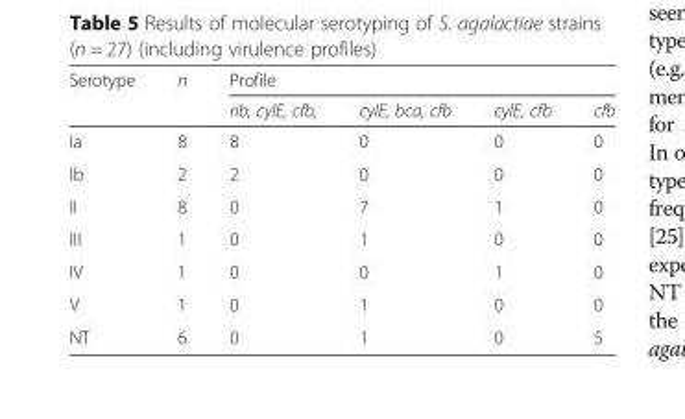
<table><thead><tr><td rowspan="2">Serotype</td><td rowspan="2">n</td><td colspan="4">Profile</td></tr><tr><td>rib, cylE, cfb,</td><td>cylE, bca, cfb</td><td>cylE, cfb</td><td>cfb</td></tr></thead><tbody><tr><td>Ia</td><td>8</td><td>8</td><td>0</td><td>0</td><td>0</td></tr><tr><td>Ib</td><td>2</td><td>2</td><td>0</td><td>0</td><td>0</td></tr><tr><td>II</td><td>8</td><td>0</td><td>7</td><td>1</td><td>0</td></tr><tr><td>III</td><td>1</td><td>0</td><td>1</td><td>0</td><td>0</td></tr><tr><td>IV</td><td>1</td><td>0</td><td>0</td><td>1</td><td>0</td></tr><tr><td>V</td><td>1</td><td>0</td><td>1</td><td>0</td><td>0</td></tr><tr><td>NT</td><td>6</td><td>0</td><td>1</td><td>0</td><td>5</td></tr></tbody></table>